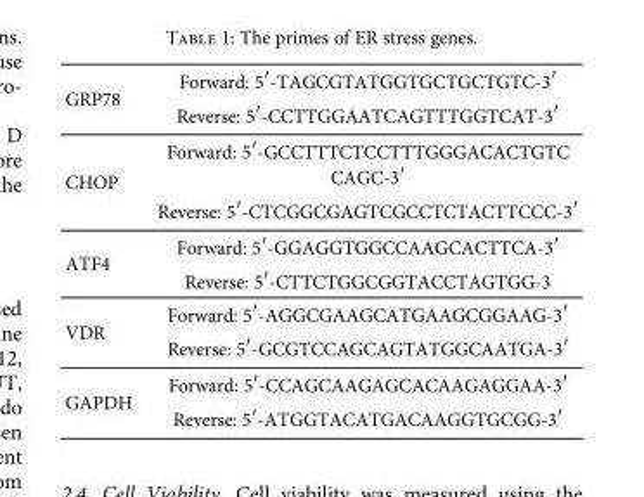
<table><tbody><tr><td rowspan="2">GRP78</td><td>Forward: 5′-TAGCGTATGGTGCTGCTGTC-3′</td></tr><tr><td>Reverse: 5′-CCTTGGAATCAGTTTGGTCAT-3′</td></tr><tr><td rowspan="2">CHOP</td><td>Forward: 5′-GCCTTTCTCCTTTGGGACACTGTC CAGC-3′</td></tr><tr><td>Reverse: 5′-CTCGGCGAGTCGCCTCTACTTCCC-3′</td></tr><tr><td rowspan="2">ATF4</td><td>Forward: 5′-GGAGGTGGCCAAGCACTTCA-3′</td></tr><tr><td>Reverse: 5′-CTTCTGGCGGTACCTAGTGG-3</td></tr><tr><td rowspan="2">VDR</td><td>Forward: 5′-AGGCGAAGCATGAAGCGGAAG-3′</td></tr><tr><td>Reverse: 5′-GCGTCCAGCAGTATGGCAATGA-3′</td></tr><tr><td rowspan="2">GAPDH</td><td>Forward: 5′-CCAGCAAGAGCACAAGAGGAA-3′</td></tr><tr><td>Reverse: 5′-ATGGTACATGACAAGGTGCGG-3′</td></tr></tbody></table>